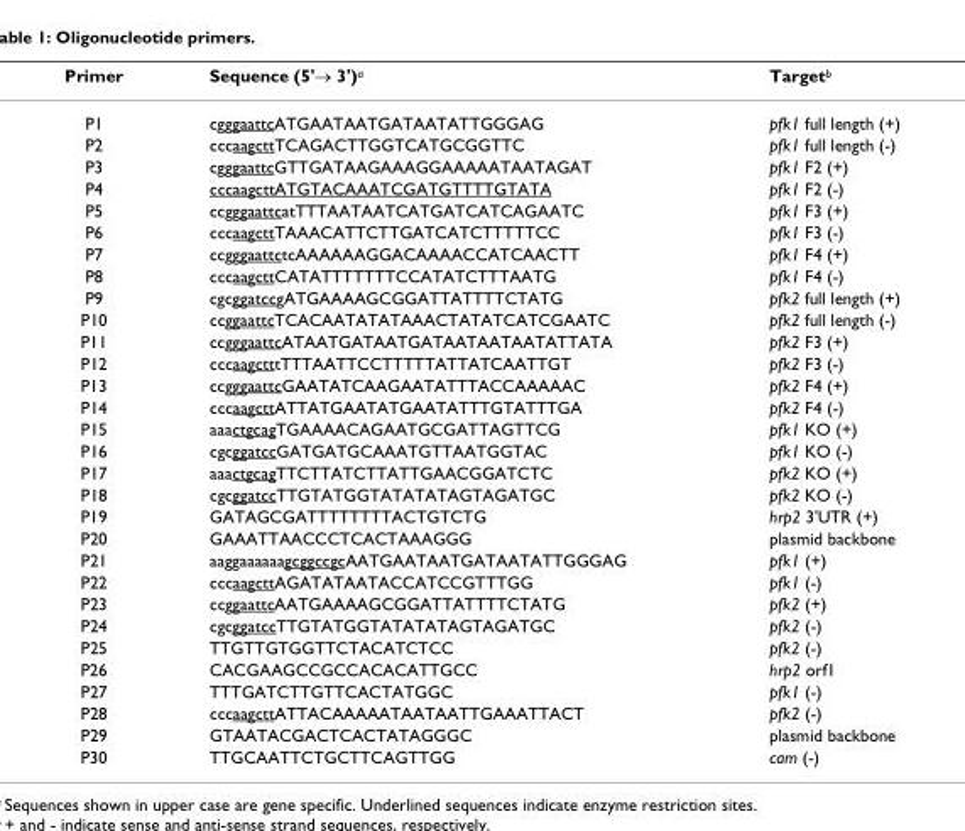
<table><thead><tr><td>Primer</td><td>Sequence (5&#x27;→ 3&#x27;)<sup>a</sup></td><td>Target<sup>b</sup></td></tr></thead><tbody><tr><td>P1</td><td>cgggaattcATGAATAATGATAATATTGGGAG</td><td>pfk1 full length (+)</td></tr><tr><td>P2</td><td>cccaagcttTCAGACTTGGTCATGCGGTTC</td><td>pfk1 full length (-)</td></tr><tr><td>P3</td><td>cgggaattcGTTGATAAGAAAGGAAAAATAATAGAT</td><td>pfk1 F2 (+)</td></tr><tr><td>P4</td><td>cccaagcttATGTACAAATCGATGTTTTGTATA</td><td>pfk1 F2 (-)</td></tr><tr><td>P5</td><td>ccgggaattcatTTTAATAATCATGATCATCAGAATC</td><td>pfk1 F3 (+)</td></tr><tr><td>P6</td><td>cccaagcttTAAACATTCTTGATCATCTTTTTCC</td><td>pfk1 F3 (-)</td></tr><tr><td>P7</td><td>ccgggaattctcAAAAAAGGACAAAACCATCAACTT</td><td>pfk1 F4 (+)</td></tr><tr><td>P8</td><td>cccaagcttCATATTTTTTTCCATATCTTTAATG</td><td>pfk1 F4 (-)</td></tr><tr><td>P9</td><td>cgcggatccgATGAAAAGCGGATTATTTTCTATG</td><td>pfk2 full length (+)</td></tr><tr><td>P10</td><td>ccggaattcTCACAATATATAAACTATATCATCGAATC</td><td>pfk2 full length (-)</td></tr><tr><td>P11</td><td>ccgggaattcATAATGATAATGATAATAATAATATTATA</td><td>pfk2 F3 (+)</td></tr><tr><td>P12</td><td>cccaagctttTTTAATTCCTTTTTATTATCAATTGT</td><td>pfk2 F3 (-)</td></tr><tr><td>P13</td><td>ccgggaattcGAATATCAAGAATATTTACCAAAAAC</td><td>pfk2 F4 (+)</td></tr><tr><td>P14</td><td>cccaagcttATTATGAATATGAATATTTGTATTTGA</td><td>pfk2 F4 (-)</td></tr><tr><td>P15</td><td>aaactgcagTGAAAACAGAATGCGATTAGTTCG</td><td>pfk1 KO (+)</td></tr><tr><td>P16</td><td>cgcggatccGATGATGCAAATGTTAATGGTAC</td><td>pfk1 KO (-)</td></tr><tr><td>P17</td><td>aaactgcagTTCTTATCTTATTGAACGGATCTC</td><td>pfk2 KO (+)</td></tr><tr><td>P18</td><td>cgcggatccTTGTATGGTATATATAGTAGATGC</td><td>pfk2 KO (-)</td></tr><tr><td>P19</td><td>GATAGCGATTTTTTTTACTGTCTG</td><td>hrp2 3&#x27;UTR (+)</td></tr><tr><td>P20</td><td>GAAATTAACCCTCACTAAAGGG</td><td>plasmid backbone</td></tr><tr><td>P21</td><td>aaggaaaaaagcggccgcAATGAATAATGATAATATTGGGAG</td><td>pfk1 (+)</td></tr><tr><td>P22</td><td>cccaagcttAGATATAATACCATCCGTTTGG</td><td>pfk1 (-)</td></tr><tr><td>P23</td><td>ccggaattcAATGAAAAGCGGATTATTTTCTATG</td><td>pfk2 (+)</td></tr><tr><td>P24</td><td>cgcggatccTTGTATGGTATATATAGTAGATGC</td><td>pfk2 (-)</td></tr><tr><td>P25</td><td>TTGTTGTGGTTCTACATCTCC</td><td>pfk2 (-)</td></tr><tr><td>P26</td><td>CACGAAGCCGCCACACATTGCC</td><td>hrp2 orf1</td></tr><tr><td>P27</td><td>TTTGATCTTGTTCACTATGGC</td><td>pfk1 (-)</td></tr><tr><td>P28</td><td>cccaagcttATTACAAAAATAATAATTGAAATTACT</td><td>pfk2 (-)</td></tr><tr><td>P29</td><td>GTAATACGACTCACTATAGGGC</td><td>plasmid backbone</td></tr><tr><td>P30</td><td>TTGCAATTCTGCTTCAGTTGG</td><td>cam (-)</td></tr></tbody></table>